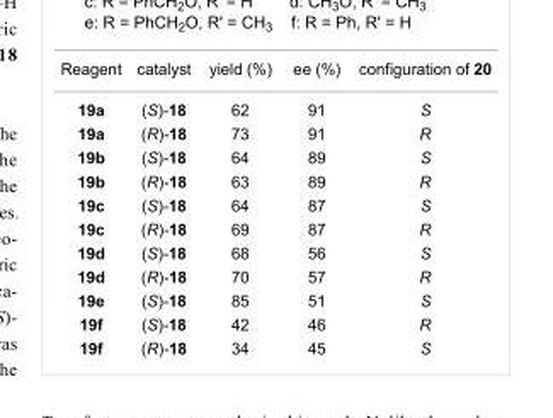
<table><tbody><tr><td>Reagent</td><td>catalyst</td><td>yield (%)</td><td>ee (%)</td><td>configuration of 20</td></tr><tr><td>19a</td><td>(S)-18</td><td>62</td><td>91</td><td>S</td></tr><tr><td>19a</td><td>(R)-18</td><td>73</td><td>91</td><td>R</td></tr><tr><td>19b</td><td>(S)-18</td><td>64</td><td>89</td><td>S</td></tr><tr><td>19b</td><td>(R)-18</td><td>63</td><td>89</td><td>R</td></tr><tr><td>19c</td><td>(S)-18</td><td>64</td><td>87</td><td>S</td></tr><tr><td>19c</td><td>(R)-18</td><td>69</td><td>87</td><td>R</td></tr><tr><td>19d</td><td>(S)-18</td><td>68</td><td>56</td><td>S</td></tr><tr><td>19d</td><td>(R)-18</td><td>70</td><td>57</td><td>R</td></tr><tr><td>19e</td><td>(S)-18</td><td>85</td><td>51</td><td>S</td></tr><tr><td>19f</td><td>(S)-18</td><td>42</td><td>46</td><td>R</td></tr><tr><td>19f</td><td>(R)-18</td><td>34</td><td>45</td><td>S</td></tr></tbody></table>